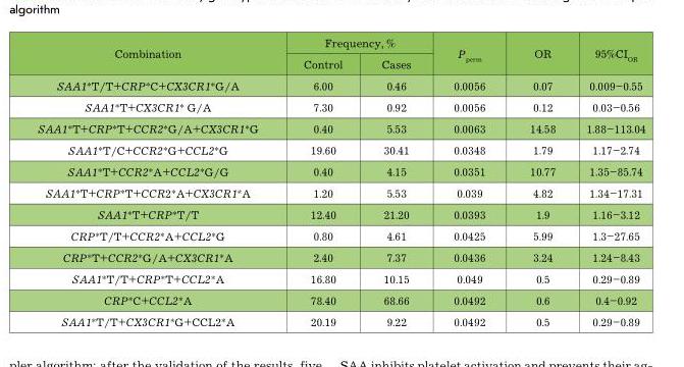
<table><thead><tr><td rowspan="2">Combination</td><td colspan="2">Frequency, %</td><td rowspan="2">P<sub>perm</sub></td><td rowspan="2">OR</td><td rowspan="2">95%CI<sub>OR</sub></td></tr><tr><td>Control</td><td>Cases</td></tr></thead><tbody><tr><td>SAA1*T/T+CRP*C+CX3CR1*G/A</td><td>6.00</td><td>0.46</td><td>0.0056</td><td>0.07</td><td>0.009–0.55</td></tr><tr><td>SAA1*T+CX3CR1* G/A</td><td>7.30</td><td>0.92</td><td>0.0056</td><td>0.12</td><td>0.03–0.56</td></tr><tr><td>SAA1*T+CRP*T+CCR2*G/A+CX3CR1*G</td><td>0.40</td><td>5.53</td><td>0.0063</td><td>14.58</td><td>1.88–113.04</td></tr><tr><td>SAA1*T/C+CCR2*G+CCL2*G</td><td>19.60</td><td>30.41</td><td>0.0348</td><td>1.79</td><td>1.17–2.74</td></tr><tr><td>SAA1*T+CCR2*A+CCL2*G/G</td><td>0.40</td><td>4.15</td><td>0.0351</td><td>10.77</td><td>1.35–85.74</td></tr><tr><td>SAA1*T+CRP*T+CCR2*A+CX3CR1*A</td><td>1.20</td><td>5.53</td><td>0.039</td><td>4.82</td><td>1.34–17.31</td></tr><tr><td>SAA1*T+CRP*T/T</td><td>12.40</td><td>21.20</td><td>0.0393</td><td>1.9</td><td>1.16–3.12</td></tr><tr><td>CRP*T/T+CCR2*A+CCL2*G</td><td>0.80</td><td>4.61</td><td>0.0425</td><td>5.99</td><td>1.3–27.65</td></tr><tr><td>CRP*T+CCR2*G/A+CX3CR1*A</td><td>2.40</td><td>7.37</td><td>0.0436</td><td>3.24</td><td>1.24–8.43</td></tr><tr><td>SAA1*T/T+CRP*T+CCL2*A</td><td>16.80</td><td>10.15</td><td>0.049</td><td>0.5</td><td>0.29–0.89</td></tr><tr><td>CRP*C+CCL2*A</td><td>78.40</td><td>68.66</td><td>0.0492</td><td>0.6</td><td>0.4–0.92</td></tr><tr><td>SAA1*T/T+CX3CR1*G+CCL2*A</td><td>20.19</td><td>9.22</td><td>0.0492</td><td>0.5</td><td>0.29–0.89</td></tr></tbody></table>